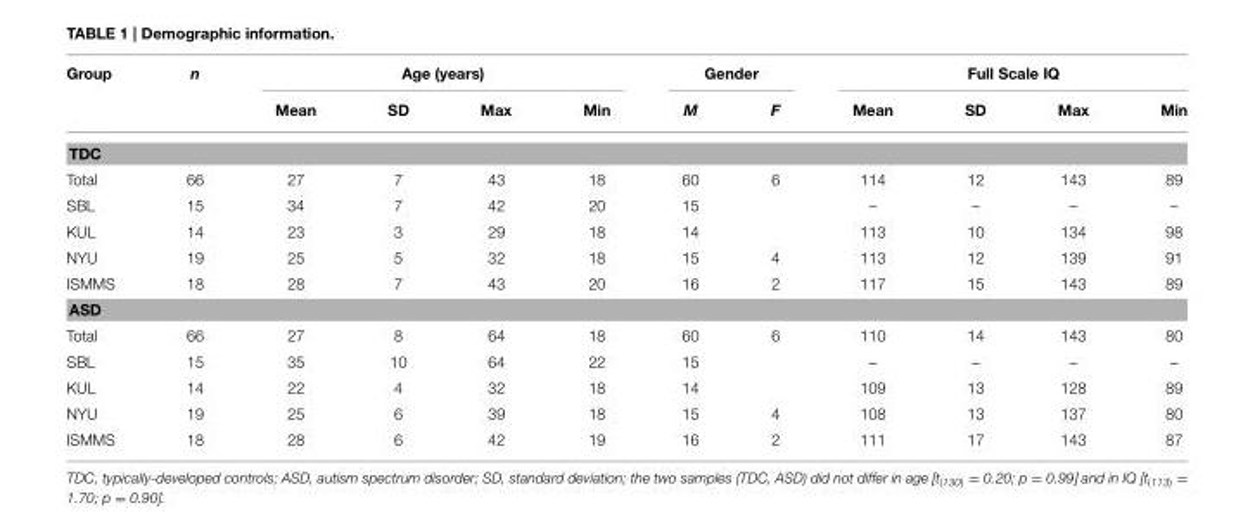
<table><thead><tr><td rowspan="2">Group</td><td rowspan="2">n</td><td colspan="4">Age (years)</td><td colspan="2">Gender</td><td colspan="4">Full Scale IQ</td></tr><tr><td>Mean</td><td>SD</td><td>Max</td><td>Min</td><td>M</td><td>F</td><td>Mean</td><td>SD</td><td>Max</td><td>Min</td></tr></thead><tbody><tr><td colspan="12">TDC</td></tr><tr><td>Total</td><td>66</td><td>27</td><td>7</td><td>43</td><td>18</td><td>60</td><td>6</td><td>114</td><td>12</td><td>143</td><td>89</td></tr><tr><td>SBL</td><td>15</td><td>34</td><td>7</td><td>42</td><td>20</td><td>15</td><td></td><td>–</td><td>–</td><td>–</td><td>–</td></tr><tr><td>KUL</td><td>14</td><td>23</td><td>3</td><td>29</td><td>18</td><td>14</td><td></td><td>113</td><td>10</td><td>134</td><td>98</td></tr><tr><td>NYU</td><td>19</td><td>25</td><td>5</td><td>32</td><td>18</td><td>15</td><td>4</td><td>113</td><td>12</td><td>139</td><td>91</td></tr><tr><td>ISMMS</td><td>18</td><td>28</td><td>7</td><td>43</td><td>20</td><td>16</td><td>2</td><td>117</td><td>15</td><td>143</td><td>89</td></tr><tr><td colspan="12">ASD</td></tr><tr><td>Total</td><td>66</td><td>27</td><td>8</td><td>64</td><td>18</td><td>60</td><td>6</td><td>110</td><td>14</td><td>143</td><td>80</td></tr><tr><td>SBL</td><td>15</td><td>35</td><td>10</td><td>64</td><td>22</td><td>15</td><td></td><td>–</td><td>–</td><td>–</td><td>–</td></tr><tr><td>KUL</td><td>14</td><td>22</td><td>4</td><td>32</td><td>18</td><td>14</td><td></td><td>109</td><td>13</td><td>128</td><td>89</td></tr><tr><td>NYU</td><td>19</td><td>25</td><td>6</td><td>39</td><td>18</td><td>15</td><td>4</td><td>108</td><td>13</td><td>137</td><td>80</td></tr><tr><td>ISMMS</td><td>18</td><td>28</td><td>6</td><td>42</td><td>19</td><td>16</td><td>2</td><td>111</td><td>17</td><td>143</td><td>87</td></tr></tbody></table>